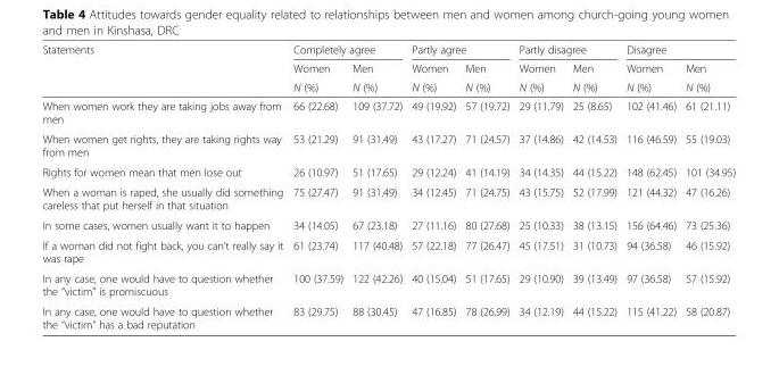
<table><thead><tr><td rowspan="3">Statements</td><td colspan="2">Completely agree</td><td colspan="2">Partly agree</td><td colspan="2">Partly disagree</td><td colspan="2">Disagree</td></tr><tr><td rowspan="2">Women N (%)</td><td rowspan="2">Men N (%)</td><td rowspan="2">Women N (%)</td><td rowspan="2">Men N (%)</td><td rowspan="2">Women N (%)</td><td rowspan="2">Men N (%)</td><td rowspan="2">Women N (%)</td><td rowspan="2">Men N (%)</td></tr><tr></tr></thead><tbody><tr><td>When women work they are taking jobs away from men</td><td>66 (22.68)</td><td>109 (37.72)</td><td>49 (19.92)</td><td>57 (19.72)</td><td>29 (11.79)</td><td>25 (8.65)</td><td>102 (41.46)</td><td>61 (21.11)</td></tr><tr><td>When women get rights, they are taking rights way from men</td><td>53 (21.29)</td><td>91 (31.49)</td><td>43 (17.27)</td><td>71 (24.57)</td><td>37 (14.86)</td><td>42 (14.53)</td><td>116 (46.59)</td><td>55 (19.03)</td></tr><tr><td>Rights for women mean that men lose out</td><td>26 (10.97)</td><td>51 (17.65)</td><td>29 (12.24)</td><td>41 (14.19)</td><td>34 (14.35)</td><td>44 (15.22)</td><td>148 (62.45)</td><td>101 (34.95)</td></tr><tr><td>When a woman is raped, she usually did something careless that put herself in that situation</td><td>75 (27.47)</td><td>91 (31.49)</td><td>34 (12.45)</td><td>71 (24.75)</td><td>43 (15.75)</td><td>52 (17.99)</td><td>121 (44.32)</td><td>47 (16.26)</td></tr><tr><td>In some cases, women usually want it to happen</td><td>34 (14.05)</td><td>67 (23.18)</td><td>27 (11.16)</td><td>80 (27.68)</td><td>25 (10.33)</td><td>38 (13.15)</td><td>156 (64.46)</td><td>73 (25.36)</td></tr><tr><td>If a woman did not fight back, you can’t really say it was rape</td><td>61 (23.74)</td><td>117 (40.48)</td><td>57 (22.18)</td><td>77 (26.47)</td><td>45 (17.51)</td><td>31 (10.73)</td><td>94 (36.58)</td><td>46 (15.92)</td></tr><tr><td>In any case, one would have to question whether the “victim” is promiscuous</td><td>100 (37.59)</td><td>122 (42.26)</td><td>40 (15.04)</td><td>51 (17.65)</td><td>29 (10.90)</td><td>39 (13.49)</td><td>97 (36.58)</td><td>57 (15.92)</td></tr><tr><td>In any case, one would have to question whether the “victim” has a bad reputation</td><td>83 (29.75)</td><td>88 (30.45)</td><td>47 (16.85)</td><td>78 (26.99)</td><td>34 (12.19)</td><td>44 (15.22)</td><td>115 (41.22)</td><td>58 (20.87)</td></tr></tbody></table>